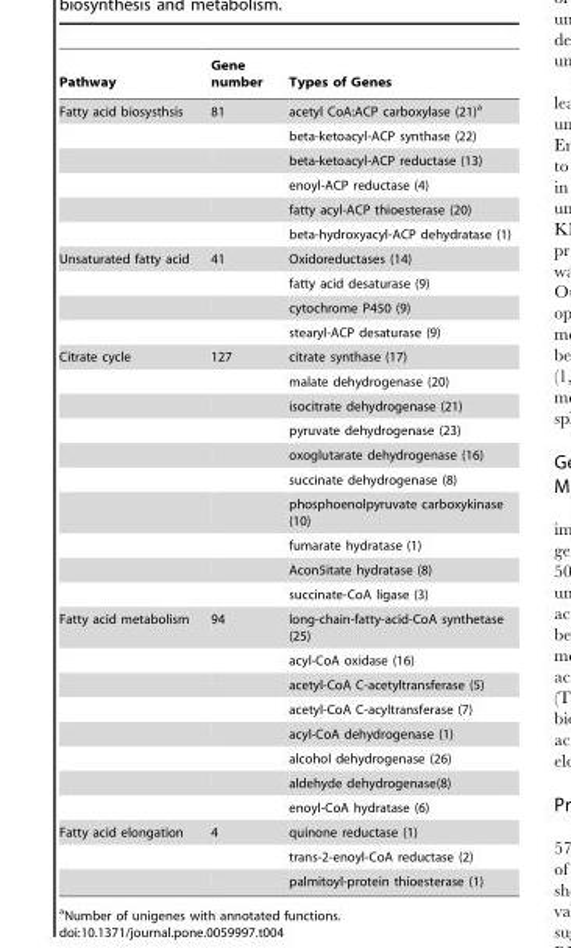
<table><thead><tr><td>Pathway</td><td>Gene number</td><td>Types of Genes</td></tr></thead><tbody><tr><td rowspan="6">Fatty acid biosysthsis</td><td>81</td><td>acetyl CoA:ACP carboxylase (21)<sup>a</sup></td></tr><tr><td></td><td>beta-ketoacyl-ACP synthase (22)</td></tr><tr><td></td><td>beta-ketoacyl-ACP reductase (13)</td></tr><tr><td></td><td>enoyl-ACP reductase (4)</td></tr><tr><td></td><td>fatty acyl-ACP thioesterase (20)</td></tr><tr><td></td><td>beta-hydroxyacyl-ACP dehydratase (1)</td></tr><tr><td rowspan="4">Unsaturated fatty acid</td><td>41</td><td>Oxidoreductases (14)</td></tr><tr><td></td><td>fatty acid desaturase (9)</td></tr><tr><td></td><td>cytochrome P450 (9)</td></tr><tr><td></td><td>stearyl-ACP desaturase (9)</td></tr><tr><td rowspan="10">Citrate cycle</td><td>127</td><td>citrate synthase (17)</td></tr><tr><td></td><td>malate dehydrogenase (20)</td></tr><tr><td></td><td>isocitrate dehydrogenase (21)</td></tr><tr><td></td><td>pyruvate dehydrogenase (23)</td></tr><tr><td></td><td>oxoglutarate dehydrogenase (16)</td></tr><tr><td></td><td>succinate dehydrogenase (8)</td></tr><tr><td></td><td>phosphoenolpyruvate carboxykinase (10)</td></tr><tr><td></td><td>fumarate hydratase (1)</td></tr><tr><td></td><td>Acon5itate hydratase (8)</td></tr><tr><td></td><td>succinate-CoA ligase (3)</td></tr><tr><td rowspan="8">Fatty acid metabolism</td><td>94</td><td>long-chain-fatty-acid-CoA synthetase (25)</td></tr><tr><td></td><td>acyl-CoA oxidase (16)</td></tr><tr><td></td><td>acetyl-CoA C-acetyltransferase (5)</td></tr><tr><td></td><td>acetyl-CoA C-acyltransferase (7)</td></tr><tr><td></td><td>acyl-CoA dehydrogenase (1)</td></tr><tr><td></td><td>alcohol dehydrogenase (26)</td></tr><tr><td></td><td>aldehyde dehydrogenase(8)</td></tr><tr><td></td><td>enoyl-CoA hydratase (6)</td></tr><tr><td rowspan="3">Fatty acid elongation</td><td>4</td><td>quinone reductase (1)</td></tr><tr><td></td><td>trans-2-enoyl-CoA reductase (2)</td></tr><tr><td></td><td>palmitoyl-protein thioesterase (1)</td></tr></tbody></table>